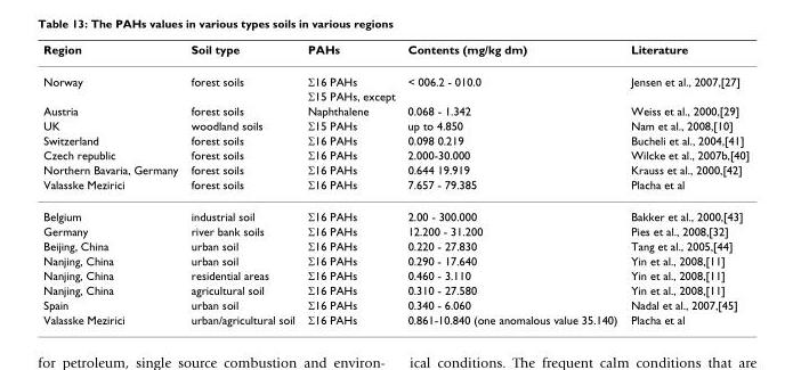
<table><thead><tr><td>Region</td><td>Soil type</td><td>PAHs</td><td>Contents (mg/kg dm)</td><td>Literature</td></tr></thead><tbody><tr><td rowspan="2">Norway</td><td>forest soils</td><td>Σ16 PAHs</td><td>&lt; 006.2 - 010.0</td><td>Jensen et al., 2007,[27]</td></tr><tr><td></td><td>Σ15 PAHs, except</td><td></td><td></td></tr><tr><td>Austria</td><td>forest soils</td><td>Naphthalene</td><td>0.068 - 1.342</td><td>Weiss et al., 2000,[29]</td></tr><tr><td>UK</td><td>woodland soils</td><td>Σ15 PAHs</td><td>up to 4.850</td><td>Nam et al., 2008,[10]</td></tr><tr><td>Switzerland</td><td>forest soils</td><td>Σ16 PAHs</td><td>0.098 0.219</td><td>Bucheli et al., 2004,[41]</td></tr><tr><td>Czech republic</td><td>forest soils</td><td>Σ16 PAHs</td><td>2.000-30.000</td><td>Wilcke et al., 2007b,[40]</td></tr><tr><td>Northern Bavaria, Germany</td><td>forest soils</td><td>Σ16 PAHs</td><td>0.644 19.919</td><td>Krauss et al., 2000,[42]</td></tr><tr><td>Valasske Mezirici</td><td>forest soils</td><td>Σ16 PAHs</td><td>7.657 - 79.385</td><td>Placha et al</td></tr><tr><td>Belgium</td><td>industrial soil</td><td>Σ16 PAHs</td><td>2.00 - 300.000</td><td>Bakker et al., 2000,[43]</td></tr><tr><td>Germany</td><td>river bank soils</td><td>Σ16 PAHs</td><td>12.200 - 31.200</td><td>Pies et al., 2008,[32]</td></tr><tr><td>Beijing, China</td><td>urban soil</td><td>Σ16 PAHs</td><td>0.220 - 27.830</td><td>Tang et al., 2005,[44]</td></tr><tr><td>Nanjing, China</td><td>urban soil</td><td>Σ16 PAHs</td><td>0.290 - 17.640</td><td>Yin et al., 2008,[11]</td></tr><tr><td>Nanjing, China</td><td>residential areas</td><td>Σ16 PAHs</td><td>0.460 - 3.110</td><td>Yin et al., 2008,[11]</td></tr><tr><td>Nanjing, China</td><td>agricultural soil</td><td>Σ16 PAHs</td><td>0.310 - 27.580</td><td>Yin et al., 2008,[11]</td></tr><tr><td>Spain</td><td>urban soil</td><td>Σ16 PAHs</td><td>0.340 - 6.060</td><td>Nadal et al., 2007,[45]</td></tr><tr><td>Valasske Mezirici</td><td>urban/agricultural soil</td><td>Σ16 PAHs</td><td>0.861-10.840 (one anomalous value 35.140)</td><td>Placha et al</td></tr></tbody></table>